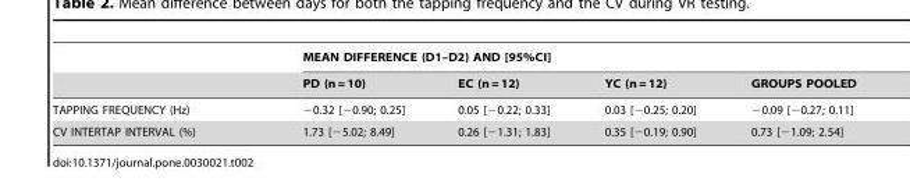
<table><thead><tr><td rowspan="2"></td><td colspan="4">MEAN DIFFERENCE (D1–D2) AND [95%CI]</td></tr><tr><td>PD (n = 10)</td><td>EC (n = 12)</td><td>YC (n = 12)</td><td>GROUPS POOLED</td></tr></thead><tbody><tr><td>TAPPING FREQUENCY (Hz)</td><td>−0.32 [−0.90; 0.25]</td><td>0.05 [−0.22; 0.33]</td><td>0.03 [−0.25; 0.20]</td><td>−0.09 [−0.27; 0.11]</td></tr><tr><td>CV INTERTAP INTERVAL (%)</td><td>1.73 [−5.02; 8.49]</td><td>0.26 [−1.31; 1.83]</td><td>0.35 [−0.19; 0.90]</td><td>0.73 [−1.09; 2.54]</td></tr></tbody></table>